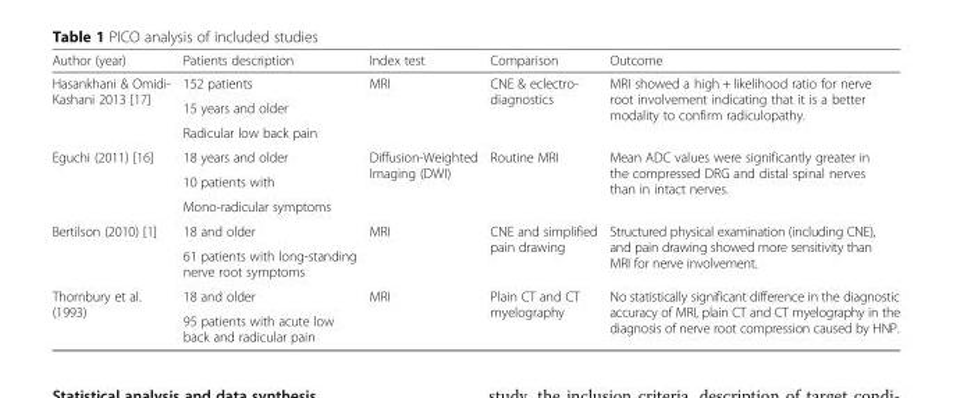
<table><thead><tr><td>Author (year)</td><td>Patients description</td><td>Index test</td><td>Comparison</td><td>Outcome</td></tr></thead><tbody><tr><td rowspan="3">Hasankhani &amp; Omidi- Kashani 2013 [17]</td><td>152 patients</td><td rowspan="3">MRI</td><td rowspan="3">CNE &amp; eclectro- diagnostics</td><td rowspan="3">MRI showed a high + likelihood ratio for nerve root involvement indicating that it is a better modality to confirm radiculopathy.</td></tr><tr><td>15 years and older</td></tr><tr><td>Radicular low back pain</td></tr><tr><td rowspan="3">Eguchi (2011) [16]</td><td>18 years and older</td><td rowspan="3">Diffusion-Weighted Imaging (DWI)</td><td rowspan="3">Routine MRI</td><td rowspan="3">Mean ADC values were significantly greater in the compressed DRG and distal spinal nerves than in intact nerves.</td></tr><tr><td>10 patients with</td></tr><tr><td>Mono-radicular symptoms</td></tr><tr><td rowspan="2">Bertilson (2010) [1]</td><td>18 and older</td><td rowspan="2">MRI</td><td rowspan="2">CNE and simplified pain drawing</td><td rowspan="2">Structured physical examination (including CNE), and pain drawing showed more sensitivity than MRI for nerve involvement.</td></tr><tr><td>61 patients with long-standing nerve root symptoms</td></tr><tr><td rowspan="2">Thornbury et al. (1993)</td><td>18 and older</td><td rowspan="2">MRI</td><td rowspan="2">Plain CT and CT myelography</td><td rowspan="2">No statistically significant difference in the diagnostic accuracy of MRI, plain CT and CT myelography in the diagnosis of nerve root compression caused by HNP.</td></tr><tr><td>95 patients with acute low back and radicular pain</td></tr></tbody></table>